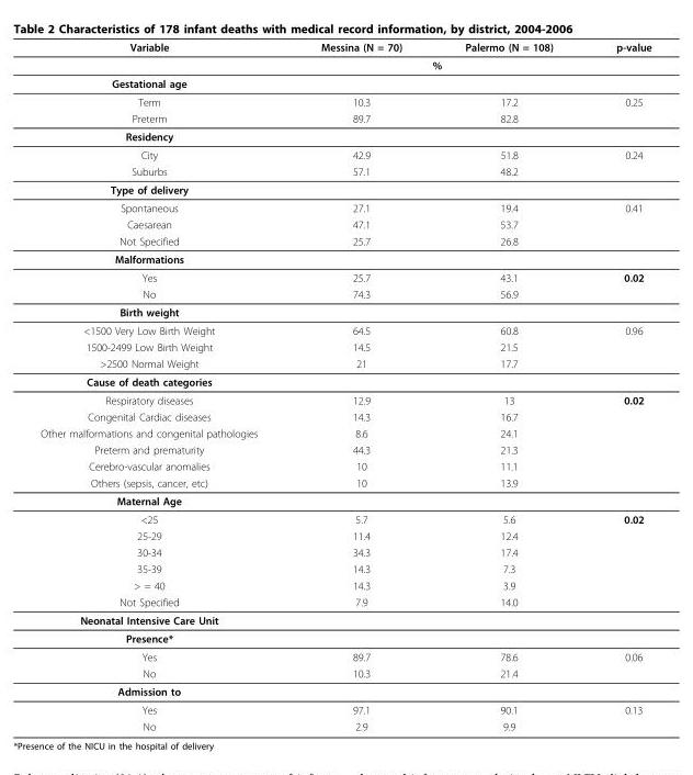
<table><thead><tr><td>Variable</td><td>Messina (N = 70)</td><td>Palermo (N = 108)</td><td>p-value</td></tr></thead><tbody><tr><td></td><td colspan="2">%</td><td></td></tr><tr><td colspan="4">Gestational age</td></tr><tr><td>Term</td><td>10.3</td><td>17.2</td><td>0.25</td></tr><tr><td>Preterm</td><td>89.7</td><td>82.8</td><td></td></tr><tr><td colspan="4">Residency</td></tr><tr><td>City</td><td>42.9</td><td>51.8</td><td>0.24</td></tr><tr><td>Suburbs</td><td>57.1</td><td>48.2</td><td></td></tr><tr><td colspan="4">Type of delivery</td></tr><tr><td>Spontaneous</td><td>27.1</td><td>19.4</td><td>0.41</td></tr><tr><td>Caesarean</td><td>47.1</td><td>53.7</td><td></td></tr><tr><td>Not Specified</td><td>25.7</td><td>26.8</td><td></td></tr><tr><td colspan="4">Malformations</td></tr><tr><td>Yes</td><td>25.7</td><td>43.1</td><td>0.02</td></tr><tr><td>No</td><td>74.3</td><td>56.9</td><td></td></tr><tr><td colspan="4">Birth weight</td></tr><tr><td>&lt;1500 Very Low Birth Weight</td><td>64.5</td><td>60.8</td><td>0.96</td></tr><tr><td>1500-2499 Low Birth Weight</td><td>14.5</td><td>21.5</td><td></td></tr><tr><td>&gt;2500 Normal Weight</td><td>21</td><td>17.7</td><td></td></tr><tr><td colspan="4">Cause of death categories</td></tr><tr><td>Respiratory diseases</td><td>12.9</td><td>13</td><td>0.02</td></tr><tr><td>Congenital Cardiac diseases</td><td>14.3</td><td>16.7</td><td></td></tr><tr><td>Other malformations and congenital pathologies</td><td>8.6</td><td>24.1</td><td></td></tr><tr><td>Preterm and prematurity</td><td>44.3</td><td>21.3</td><td></td></tr><tr><td>Cerebro-vascular anomalies</td><td>10</td><td>11.1</td><td></td></tr><tr><td>Others (sepsis, cancer, etc)</td><td>10</td><td>13.9</td><td></td></tr><tr><td colspan="4">Maternal Age</td></tr><tr><td>&lt;25</td><td>5.7</td><td>5.6</td><td>0.02</td></tr><tr><td>25-29</td><td>11.4</td><td>12.4</td><td></td></tr><tr><td>30-34</td><td>34.3</td><td>17.4</td><td></td></tr><tr><td>35-39</td><td>14.3</td><td>7.3</td><td></td></tr><tr><td>&gt; = 40</td><td>14.3</td><td>3.9</td><td></td></tr><tr><td>Not Specified</td><td>7.9</td><td>14.0</td><td></td></tr><tr><td colspan="4">Neonatal Intensive Care Unit</td></tr><tr><td colspan="4">Presence*</td></tr><tr><td>Yes</td><td>89.7</td><td>78.6</td><td>0.06</td></tr><tr><td>No</td><td>10.3</td><td>21.4</td><td></td></tr><tr><td colspan="4">Admission to</td></tr><tr><td>Yes</td><td>97.1</td><td>90.1</td><td>0.13</td></tr><tr><td>No</td><td>2.9</td><td>9.9</td><td></td></tr></tbody></table>